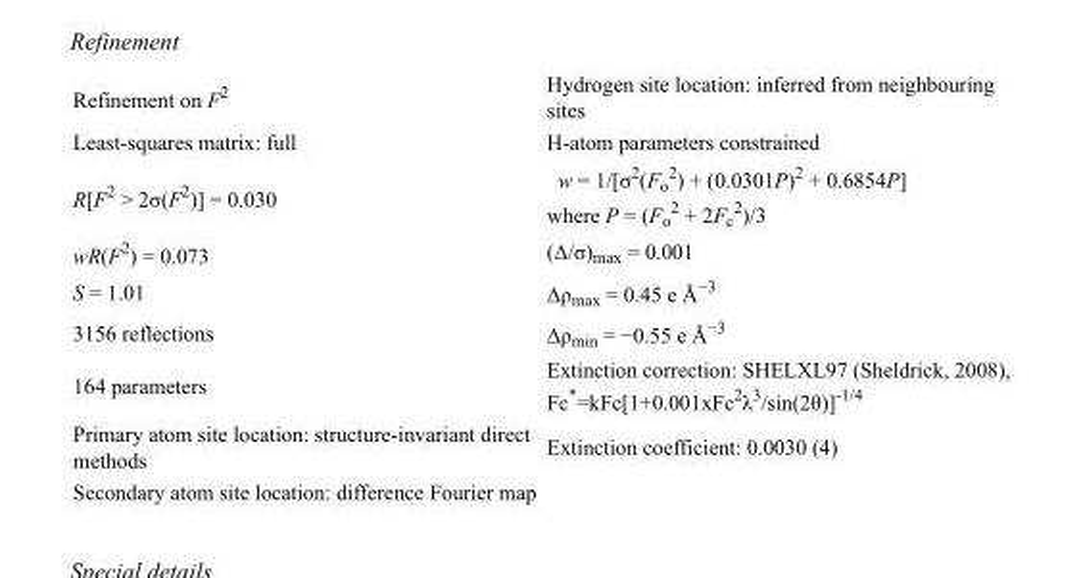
<table><tbody><tr><td>Refinement on F<sup>2</sup></td><td>Hydrogen site location: inferred from neighbouring sites</td></tr><tr><td>Least-squares matrix: full</td><td>H-atom parameters constrained</td></tr><tr><td>R[F<sup>2</sup> &gt; 2σ(F<sup>2</sup>)] = 0.030</td><td>w = 1/[σ<sup>2</sup>(F<sub>o</sub> <sup>2</sup>) + (0.0301P)<sup>2</sup> + 0.6854P] where P = (F<sub>o</sub> <sup>2</sup> + 2F<sub>c</sub> <sup>2</sup>)/3</td></tr><tr><td>wR(F<sup>2</sup>) = 0.073</td><td>(Δ/σ)<sub>max</sub> = 0.001</td></tr><tr><td>S = 1.01</td><td>Δρ<sub>max</sub> = 0.45 e Å<sup>−3</sup></td></tr><tr><td>3156 reflections</td><td>Δρ<sub>min</sub> = −0.55 e Å<sup>−3</sup></td></tr><tr><td>164 parameters</td><td>Extinction correction: SHELXL97 (Sheldrick, 2008), Fc*=kFc[1+0.001xFc<sup>2</sup>λ<sup>3</sup>/sin(2θ)]<sup>-1/4</sup></td></tr><tr><td>Primary atom site location: structure-invariant direct methods</td><td>Extinction coefficient: 0.0030 (4)</td></tr><tr><td>Secondary atom site location: difference Fourier map</td><td></td></tr></tbody></table>